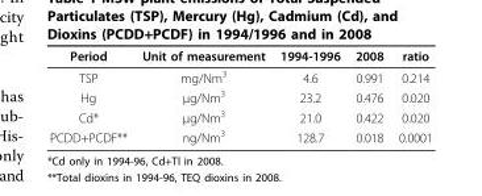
<table><thead><tr><td>Period</td><td>Unit of measurement</td><td>1994-1996</td><td>2008</td><td>ratio</td></tr></thead><tbody><tr><td>TSP</td><td>mg/Nm<sup>3</sup></td><td>4.6</td><td>0.991</td><td>0.214</td></tr><tr><td>Hg</td><td>μg/Nm<sup>3</sup></td><td>23.2</td><td>0.476</td><td>0.020</td></tr><tr><td>Cd*</td><td>μg/Nm<sup>3</sup></td><td>21.0</td><td>0.422</td><td>0.020</td></tr><tr><td>PCDD+PCDF**</td><td>ng/Nm<sup>3</sup></td><td>128.7</td><td>0.018</td><td>0.0001</td></tr></tbody></table>